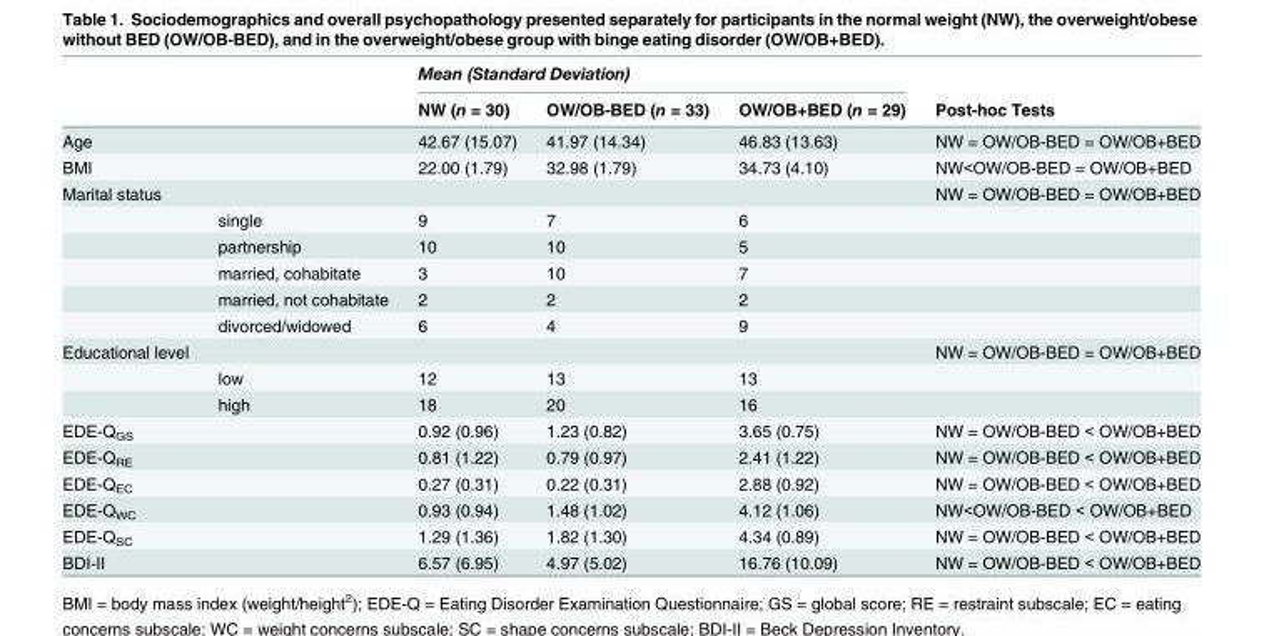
<table><thead><tr><td rowspan="2"></td><td rowspan="2"></td><td colspan="3">Mean (Standard Deviation)</td><td rowspan="2">Post-hoc Tests</td></tr><tr><td>NW (n = 30)</td><td>OW/OB-BED (n = 33)</td><td>OW/OB+BED (n = 29)</td></tr></thead><tbody><tr><td>Age</td><td></td><td>42.67 (15.07)</td><td>41.97 (14.34)</td><td>46.83 (13.63)</td><td>NW = OW/OB-BED = OW/OB+BED</td></tr><tr><td>BMI</td><td></td><td>22.00 (1.79)</td><td>32.98 (1.79)</td><td>34.73 (4.10)</td><td>NW&lt;OW/OB-BED = OW/OB+BED</td></tr><tr><td rowspan="6">Marital status</td><td></td><td></td><td></td><td></td><td>NW = OW/OB-BED = OW/OB+BED</td></tr><tr><td>single</td><td>9</td><td>7</td><td>6</td><td></td></tr><tr><td>partnership</td><td>10</td><td>10</td><td>5</td><td></td></tr><tr><td>married, cohabitate</td><td>3</td><td>10</td><td>7</td><td></td></tr><tr><td>married, not cohabitate</td><td>2</td><td>2</td><td>2</td><td></td></tr><tr><td>divorced/widowed</td><td>6</td><td>4</td><td>9</td><td></td></tr><tr><td rowspan="3">Educational level</td><td></td><td></td><td></td><td></td><td>NW = OW/OB-BED = OW/OB+BED</td></tr><tr><td>low</td><td>12</td><td>13</td><td>13</td><td></td></tr><tr><td>high</td><td>18</td><td>20</td><td>16</td><td></td></tr><tr><td>EDE-Q<sub>GS</sub></td><td></td><td>0.92 (0.96)</td><td>1.23 (0.82)</td><td>3.65 (0.75)</td><td>NW = OW/OB-BED &lt; OW/OB+BED</td></tr><tr><td>EDE-Q<sub>RE</sub></td><td></td><td>0.81 (1.22)</td><td>0.79 (0.97)</td><td>2.41 (1.22)</td><td>NW = OW/OB-BED &lt; OW/OB+BED</td></tr><tr><td>EDE-Q<sub>EC</sub></td><td></td><td>0.27 (0.31)</td><td>0.22 (0.31)</td><td>2.88 (0.92)</td><td>NW = OW/OB-BED &lt; OW/OB+BED</td></tr><tr><td>EDE-Q<sub>WC</sub></td><td></td><td>0.93 (0.94)</td><td>1.48 (1.02)</td><td>4.12 (1.06)</td><td>NW&lt;OW/OB-BED &lt; OW/OB+BED</td></tr><tr><td>EDE-Q<sub>SC</sub></td><td></td><td>1.29 (1.36)</td><td>1.82 (1.30)</td><td>4.34 (0.89)</td><td>NW = OW/OB-BED &lt; OW/OB+BED</td></tr><tr><td>BDI-II</td><td></td><td>6.57 (6.95)</td><td>4.97 (5.02)</td><td>16.76 (10.09)</td><td>NW = OW/OB-BED &lt; OW/OB+BED</td></tr></tbody></table>